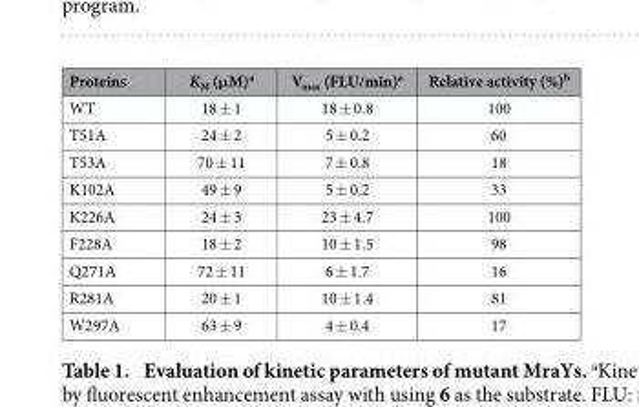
<table><thead><tr><td>Proteins</td><td>K<sub>M</sub> (μ M)<sup>a</sup></td><td>V<sub>max</sub> (FLU/min)<sup>a</sup></td><td>Relative activity (%)<sup>b</sup></td></tr></thead><tbody><tr><td>WT</td><td>18 ± 1</td><td>18 ± 0.8</td><td>100</td></tr><tr><td>T51A</td><td>24 ± 2</td><td>5 ± 0.2</td><td>60</td></tr><tr><td>T53A</td><td>70 ± 11</td><td>7 ± 0.8</td><td>18</td></tr><tr><td>K102A</td><td>49 ± 9</td><td>5 ± 0.2</td><td>33</td></tr><tr><td>K226A</td><td>24 ± 3</td><td>23 ± 4.7</td><td>100</td></tr><tr><td>F228A</td><td>18 ± 2</td><td>10 ± 1.5</td><td>98</td></tr><tr><td>Q271A</td><td>72 ± 11</td><td>6 ± 1.7</td><td>16</td></tr><tr><td>R281A</td><td>20 ± 1</td><td>10 ± 1.4</td><td>81</td></tr><tr><td>W297A</td><td>63 ± 9</td><td>4 ± 0.4</td><td>17</td></tr></tbody></table>